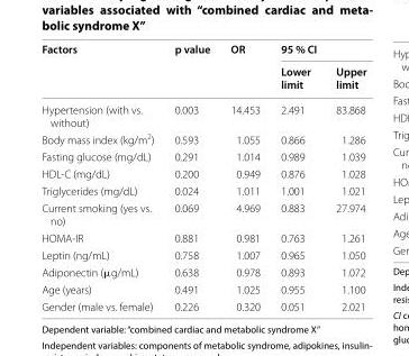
<table><thead><tr><td rowspan="2">Factors</td><td rowspan="2">p value</td><td rowspan="2">OR</td><td colspan="2">95 % CI</td></tr><tr><td>Lower limit</td><td>Upper limit</td></tr></thead><tbody><tr><td>Hypertension (with vs. without)</td><td>0.003</td><td>14.453</td><td>2.491</td><td>83.868</td></tr><tr><td>Body mass index (kg/m<sup>2</sup>)</td><td>0.593</td><td>1.055</td><td>0.866</td><td>1.286</td></tr><tr><td>Fasting glucose (mg/dL)</td><td>0.291</td><td>1.014</td><td>0.989</td><td>1.039</td></tr><tr><td>HDL‑C (mg/dL)</td><td>0.200</td><td>0.949</td><td>0.876</td><td>1.028</td></tr><tr><td>Triglycerides (mg/dL)</td><td>0.024</td><td>1.011</td><td>1.001</td><td>1.021</td></tr><tr><td>Current smoking (yes vs. no)</td><td>0.069</td><td>4.969</td><td>0.883</td><td>27.974</td></tr><tr><td>HOMA‑IR</td><td>0.881</td><td>0.981</td><td>0.763</td><td>1.261</td></tr><tr><td>Leptin (ng/mL)</td><td>0.758</td><td>1.007</td><td>0.965</td><td>1.050</td></tr><tr><td>Adiponectin (μg/mL)</td><td>0.638</td><td>0.978</td><td>0.893</td><td>1.072</td></tr><tr><td>Age (years)</td><td>0.491</td><td>1.025</td><td>0.955</td><td>1.100</td></tr><tr><td>Gender (male vs. female)</td><td>0.226</td><td>0.320</td><td>0.051</td><td>2.021</td></tr></tbody></table>